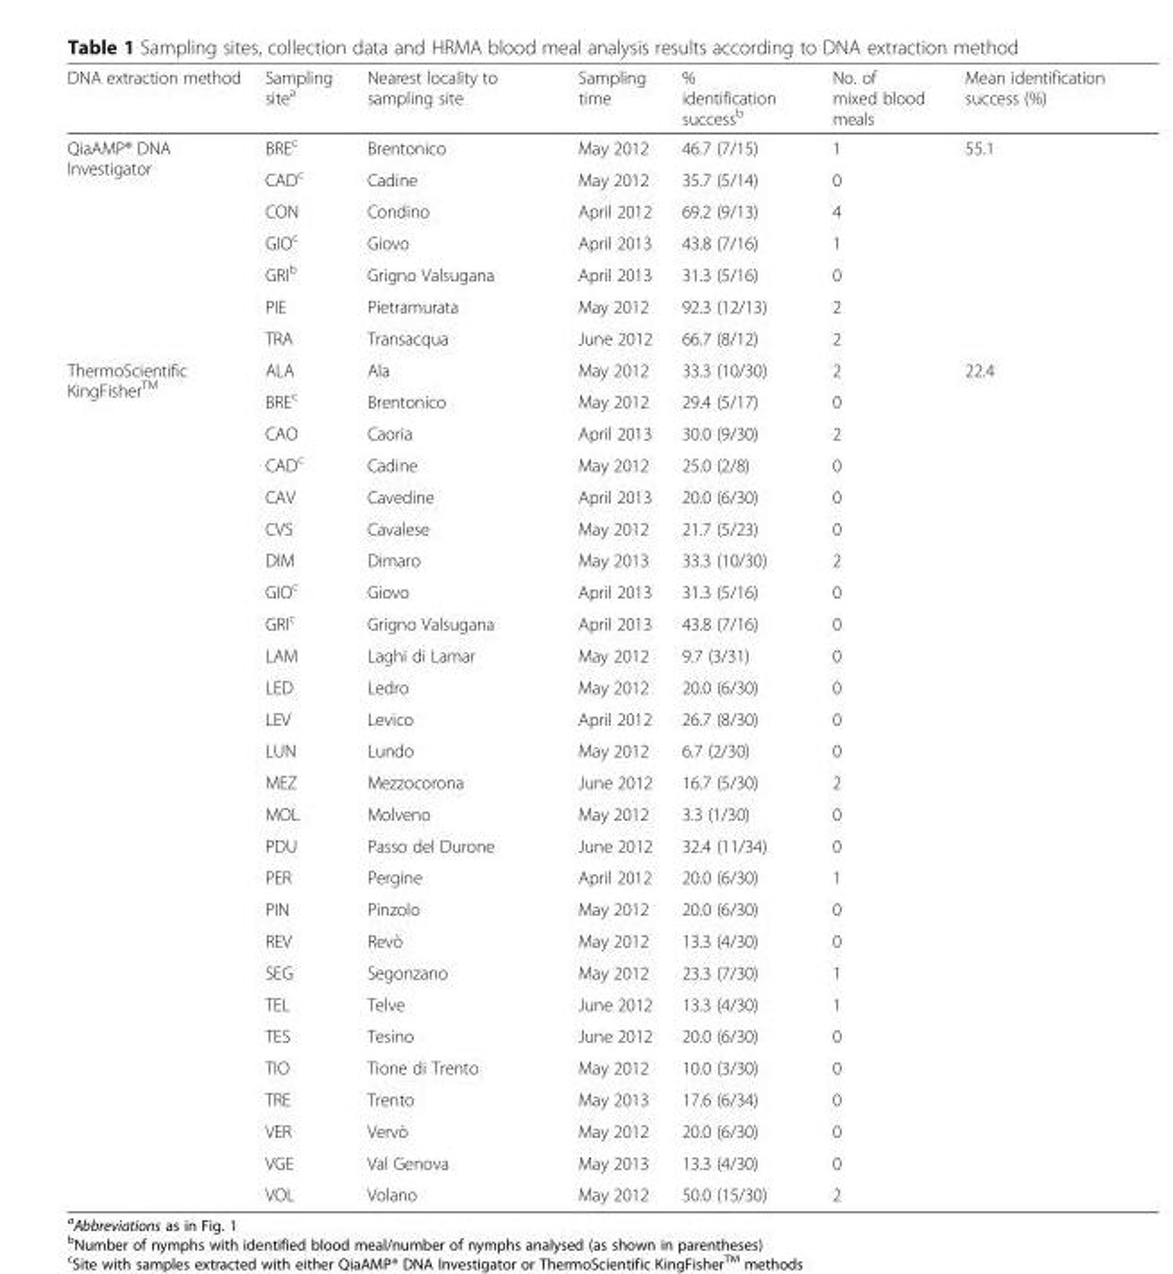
<table><thead><tr><td>DNA extraction method</td><td>Sampling site<sup>a</sup></td><td>Nearest locality to sampling site</td><td>Sampling time</td><td>% identification success<sup>b</sup></td><td>No. of mixed blood meals</td><td>Mean identification success (%)</td></tr></thead><tbody><tr><td rowspan="7">QiaAMP® DNA Investigator</td><td>BRE<sup>c</sup></td><td>Brentonico</td><td>May 2012</td><td>46.7 (7/15)</td><td>1</td><td rowspan="7">55.1</td></tr><tr><td>CAD<sup>c</sup></td><td>Cadine</td><td>May 2012</td><td>35.7 (5/14)</td><td>0</td></tr><tr><td>CON</td><td>Condino</td><td>April 2012</td><td>69.2 (9/13)</td><td>4</td></tr><tr><td>GIO<sup>c</sup></td><td>Giovo</td><td>April 2013</td><td>43.8 (7/16)</td><td>1</td></tr><tr><td>GRI<sup>b</sup></td><td>Grigno Valsugana</td><td>April 2013</td><td>31.3 (5/16)</td><td>0</td></tr><tr><td>PIE</td><td>Pietramurata</td><td>May 2012</td><td>92.3 (12/13)</td><td>2</td></tr><tr><td>TRA</td><td>Transacqua</td><td>June 2012</td><td>66.7 (8/12)</td><td>2</td></tr><tr><td rowspan="27">ThermoScientific KingFisher<sup>TM</sup></td><td>ALA</td><td>Ala</td><td>May 2012</td><td>33.3 (10/30)</td><td>2</td><td rowspan="19">22.4</td></tr><tr><td>BRE<sup>c</sup></td><td>Brentonico</td><td>May 2012</td><td>29.4 (5/17)</td><td>0</td></tr><tr><td>CAO</td><td>Caoria</td><td>April 2013</td><td>30.0 (9/30)</td><td>2</td></tr><tr><td>CAD<sup>c</sup></td><td>Cadine</td><td>May 2012</td><td>25.0 (2/8)</td><td>0</td></tr><tr><td>CAV</td><td>Cavedine</td><td>April 2013</td><td>20.0 (6/30)</td><td>0</td></tr><tr><td>CVS</td><td>Cavalese</td><td>May 2012</td><td>21.7 (5/23)</td><td>0</td></tr><tr><td>DIM</td><td>Dimaro</td><td>May 2013</td><td>33.3 (10/30)</td><td>2</td></tr><tr><td>GIO<sup>c</sup></td><td>Giovo</td><td>April 2013</td><td>31.3 (5/16)</td><td>0</td></tr><tr><td>GRI<sup>c</sup></td><td>Grigno Valsugana</td><td>April 2013</td><td>43.8 (7/16)</td><td>0</td></tr><tr><td>LAM</td><td>Laghi di Lamar</td><td>May 2012</td><td>9.7 (3/31)</td><td>0</td></tr><tr><td>LED</td><td>Ledro</td><td>May 2012</td><td>20.0 (6/30)</td><td>0</td></tr><tr><td>LEV</td><td>Levico</td><td>April 2012</td><td>26.7 (8/30)</td><td>0</td></tr><tr><td>LUN</td><td>Lundo</td><td>May 2012</td><td>6.7 (2/30)</td><td>0</td></tr><tr><td>MEZ</td><td>Mezzocorona</td><td>June 2012</td><td>16.7 (5/30)</td><td>2</td></tr><tr><td>MOL</td><td>Molveno</td><td>May 2012</td><td>3.3 (1/30)</td><td>0</td></tr><tr><td>PDU</td><td>Passo del Durone</td><td>June 2012</td><td>32.4 (11/34)</td><td>0</td></tr><tr><td>PER</td><td>Pergine</td><td>April 2012</td><td>20.0 (6/30)</td><td>1</td></tr><tr><td>PIN</td><td>Pinzolo</td><td>May 2012</td><td>20.0 (6/30)</td><td>0</td></tr><tr><td>REV</td><td>Revò</td><td>May 2012</td><td>13.3 (4/30)</td><td>0</td></tr><tr><td>SEG</td><td>Segonzano</td><td>May 2012</td><td>23.3 (7/30)</td><td>1</td><td></td></tr><tr><td>TEL</td><td>Telve</td><td>June 2012</td><td>13.3 (4/30)</td><td>1</td><td></td></tr><tr><td>TES</td><td>Tesino</td><td>June 2012</td><td>20.0 (6/30)</td><td>0</td><td></td></tr><tr><td>TIO</td><td>Tione di Trento</td><td>May 2012</td><td>10.0 (3/30)</td><td>0</td><td></td></tr><tr><td>TRE</td><td>Trento</td><td>May 2013</td><td>17.6 (6/34)</td><td>0</td><td></td></tr><tr><td>VER</td><td>Vervò</td><td>May 2012</td><td>20.0 (6/30)</td><td>0</td><td></td></tr><tr><td>VGE</td><td>Val Genova</td><td>May 2013</td><td>13.3 (4/30)</td><td>0</td><td></td></tr><tr><td>VOL</td><td>Volano</td><td>May 2012</td><td>50.0 (15/30)</td><td>2</td><td></td></tr></tbody></table>